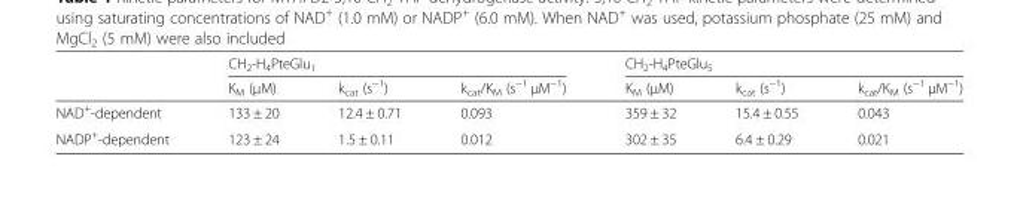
<table><thead><tr><td rowspan="2"></td><td colspan="3">CH<sub>2</sub>-H<sub>4</sub>PteGlu<sub>1</sub></td><td colspan="3">CH<sub>2</sub>-H<sub>4</sub>PteGlu<sub>5</sub></td></tr><tr><td>K<sub>M</sub> (μM)</td><td>k<sub>cat</sub> (s<sup>−1</sup>)</td><td>k<sub>cat</sub>/K<sub>M</sub> (s<sup>−1</sup> μM<sup>−1</sup>)</td><td>K<sub>M</sub> (μM)</td><td>k<sub>cat</sub> (s<sup>−1</sup>)</td><td>k<sub>cat</sub>/K<sub>M</sub> (s<sup>−1</sup> μM<sup>−1</sup>)</td></tr></thead><tbody><tr><td>NAD<sup>+</sup>-dependent</td><td>133 ± 20</td><td>12.4 ± 0.71</td><td>0.093</td><td>359 ± 32</td><td>15.4 ± 0.55</td><td>0.043</td></tr><tr><td>NADP<sup>+</sup>-dependent</td><td>123 ± 24</td><td>1.5 ± 0.11</td><td>0.012</td><td>302 ± 35</td><td>6.4 ± 0.29</td><td>0.021</td></tr></tbody></table>